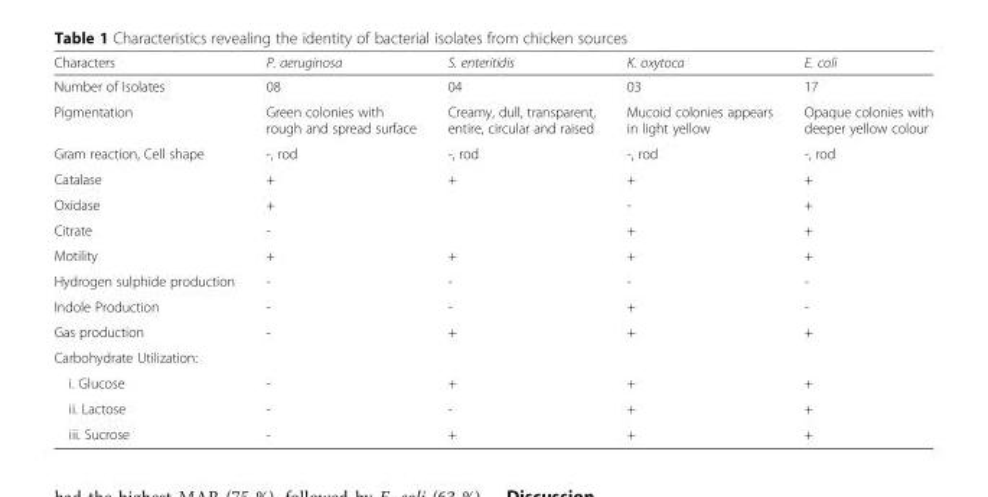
<table><thead><tr><td>Characters</td><td>P. aeruginosa</td><td>S. enteritidis</td><td>K. oxytoca</td><td>E. coli</td></tr></thead><tbody><tr><td>Number of Isolates</td><td>08</td><td>04</td><td>03</td><td>17</td></tr><tr><td>Pigmentation</td><td>Green colonies with rough and spread surface</td><td>Creamy, dull, transparent, entire, circular and raised</td><td>Mucoid colonies appears in light yellow</td><td>Opaque colonies with deeper yellow colour</td></tr><tr><td>Gram reaction, Cell shape</td><td>-, rod</td><td>-, rod</td><td>-, rod</td><td>-, rod</td></tr><tr><td>Catalase</td><td>+</td><td>+</td><td>+</td><td>+</td></tr><tr><td>Oxidase</td><td>+</td><td></td><td>-</td><td>+</td></tr><tr><td>Citrate</td><td>-</td><td></td><td>+</td><td>+</td></tr><tr><td>Motility</td><td>+</td><td>+</td><td>+</td><td>+</td></tr><tr><td>Hydrogen sulphide production</td><td>-</td><td>-</td><td>-</td><td>-</td></tr><tr><td>Indole Production</td><td>-</td><td>-</td><td>+</td><td>-</td></tr><tr><td>Gas production</td><td>-</td><td>+</td><td>+</td><td>+</td></tr><tr><td colspan="5">Carbohydrate Utilization:</td></tr><tr><td>i. Glucose</td><td>-</td><td>+</td><td>+</td><td>+</td></tr><tr><td>ii. Lactose</td><td>-</td><td>-</td><td>+</td><td>+</td></tr><tr><td>iii. Sucrose</td><td>-</td><td>+</td><td>+</td><td>+</td></tr></tbody></table>